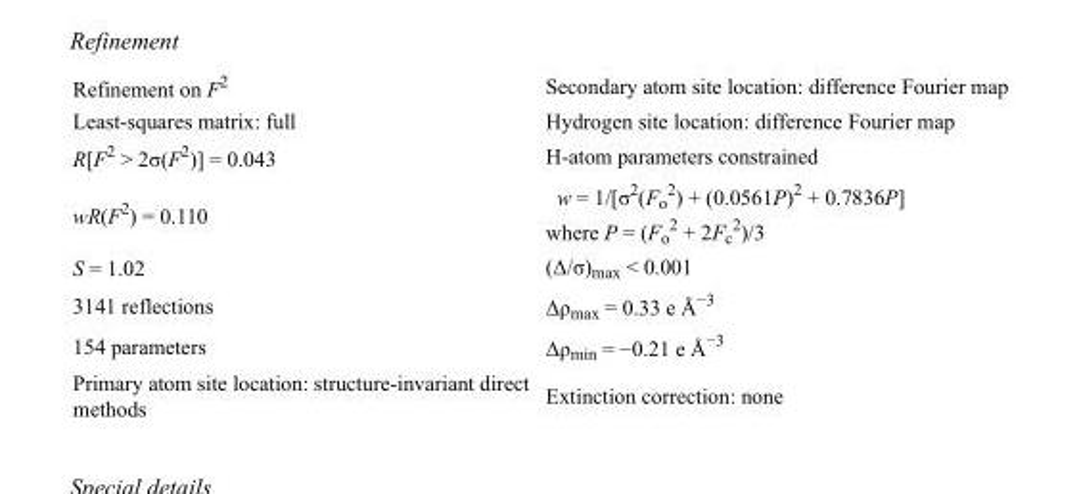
<table><tbody><tr><td>Refinement on F<sup>2</sup></td><td>Secondary atom site location: difference Fourier map</td></tr><tr><td>Least-squares matrix: full</td><td>Hydrogen site location: difference Fourier map</td></tr><tr><td>R[F<sup>2</sup> &gt; 2σ(F<sup>2</sup>)] = 0.043</td><td>H-atom parameters constrained</td></tr><tr><td>wR(F<sup>2</sup>) = 0.110</td><td>w = 1/[σ<sup>2</sup>(F<sub>o</sub> <sup>2</sup>) + (0.0561P)<sup>2</sup> + 0.7836P] where P = (F<sub>o</sub> <sup>2</sup> + 2F<sub>c</sub> <sup>2</sup>)/3</td></tr><tr><td>S = 1.02</td><td>(Δ/σ)<sub>max</sub> &lt; 0.001</td></tr><tr><td>3141 reflections</td><td>Δρ<sub>max</sub> = 0.33 e Å<sup>−3</sup></td></tr><tr><td>154 parameters</td><td>Δρ<sub>min</sub> = −0.21 e Å<sup>−3</sup></td></tr><tr><td>Primary atom site location: structure-invariant direct methods</td><td>Extinction correction: none</td></tr></tbody></table>